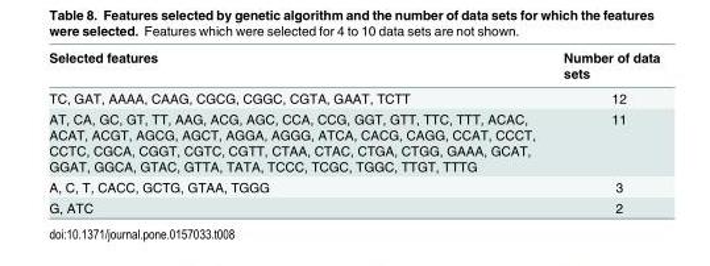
<table><thead><tr><td>Selected features</td><td>Number of data sets</td></tr></thead><tbody><tr><td>TC, GAT, AAAA, CAAG, CGCG, CGGC, CGTA, GAAT, TCTT</td><td>12</td></tr><tr><td>AT, CA, GC, GT, TT, AAG, ACG, AGC, CCA, CCG, GGT, GTT, TTC, TTT, ACAC, ACAT, ACGT, AGCG, AGCT, AGGA, AGGG, ATCA, CACG, CAGG, CCAT, CCCT, CCTC, CGCA, CGGT, CGTC, CGTT, CTAA, CTAC, CTGA, CTGG, GAAA, GCAT, GGAT, GGCA, GTAC, GTTA, TATA, TCCC, TCGC, TGGC, TTGT, TTTG</td><td>11</td></tr><tr><td>A, C, T, CACC, GCTG, GTAA, TGGG</td><td>3</td></tr><tr><td>G, ATC</td><td>2</td></tr></tbody></table>